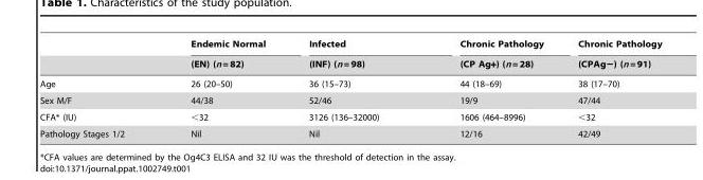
<table><thead><tr><td rowspan="2"></td><td rowspan="2">Endemic Normal (EN) (n = 82)</td><td rowspan="2">Infected (INF) (n = 98)</td><td rowspan="2">Chronic Pathology (CP Ag+) (n = 28)</td><td rowspan="2">Chronic Pathology (CPAg−) (n = 91)</td></tr><tr></tr></thead><tbody><tr><td>Age</td><td>26 (20–50)</td><td>36 (15–73)</td><td>44 (18–69)</td><td>38 (17–70)</td></tr><tr><td>Sex M/F</td><td>44/38</td><td>52/46</td><td>19/9</td><td>47/44</td></tr><tr><td>CFA* (IU)</td><td>&lt;32</td><td>3126 (136–32000)</td><td>1606 (464–8996)</td><td>&lt;32</td></tr><tr><td>Pathology Stages 1/2</td><td>Nil</td><td>Nil</td><td>12/16</td><td>42/49</td></tr></tbody></table>